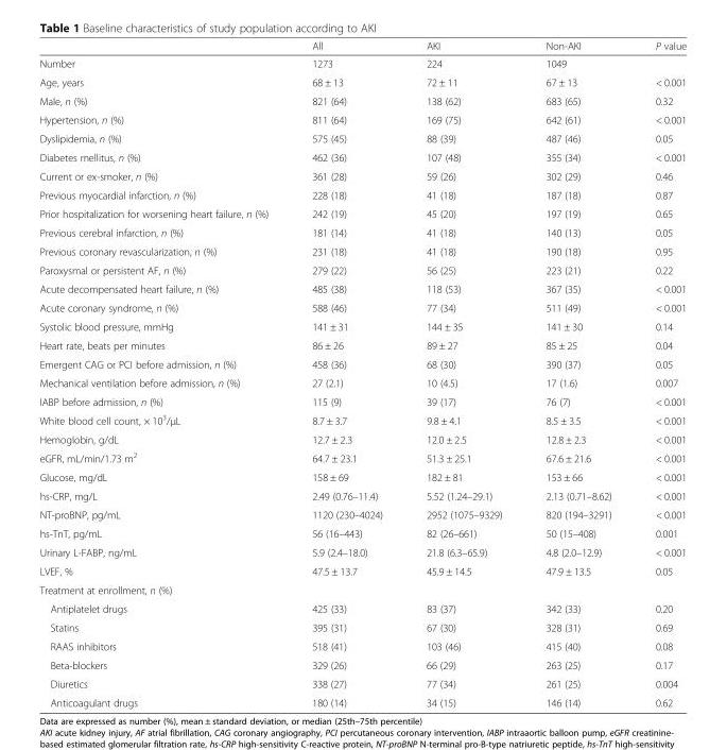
<table><thead><tr><td></td><td>All</td><td>AKI</td><td>Non-AKI</td><td>P value</td></tr></thead><tbody><tr><td>Number</td><td>1273</td><td>224</td><td>1049</td><td></td></tr><tr><td>Age, years</td><td>68 ± 13</td><td>72 ± 11</td><td>67 ± 13</td><td>&lt; 0.001</td></tr><tr><td>Male, n (%)</td><td>821 (64)</td><td>138 (62)</td><td>683 (65)</td><td>0.32</td></tr><tr><td>Hypertension, n (%)</td><td>811 (64)</td><td>169 (75)</td><td>642 (61)</td><td>&lt; 0.001</td></tr><tr><td>Dyslipidemia, n (%)</td><td>575 (45)</td><td>88 (39)</td><td>487 (46)</td><td>0.05</td></tr><tr><td>Diabetes mellitus, n (%)</td><td>462 (36)</td><td>107 (48)</td><td>355 (34)</td><td>&lt; 0.001</td></tr><tr><td>Current or ex-smoker, n (%)</td><td>361 (28)</td><td>59 (26)</td><td>302 (29)</td><td>0.46</td></tr><tr><td>Previous myocardial infarction, n (%)</td><td>228 (18)</td><td>41 (18)</td><td>187 (18)</td><td>0.87</td></tr><tr><td>Prior hospitalization for worsening heart failure, n (%)</td><td>242 (19)</td><td>45 (20)</td><td>197 (19)</td><td>0.65</td></tr><tr><td>Previous cerebral infarction, n (%)</td><td>181 (14)</td><td>41 (18)</td><td>140 (13)</td><td>0.05</td></tr><tr><td>Previous coronary revascularization, n (%)</td><td>231 (18)</td><td>41 (18)</td><td>190 (18)</td><td>0.95</td></tr><tr><td>Paroxysmal or persistent AF, n (%)</td><td>279 (22)</td><td>56 (25)</td><td>223 (21)</td><td>0.22</td></tr><tr><td>Acute decompensated heart failure, n (%)</td><td>485 (38)</td><td>118 (53)</td><td>367 (35)</td><td>&lt; 0.001</td></tr><tr><td>Acute coronary syndrome, n (%)</td><td>588 (46)</td><td>77 (34)</td><td>511 (49)</td><td>&lt; 0.001</td></tr><tr><td>Systolic blood pressure, mmHg</td><td>141 ± 31</td><td>144 ± 35</td><td>141 ± 30</td><td>0.14</td></tr><tr><td>Heart rate, beats per minutes</td><td>86 ± 26</td><td>89 ± 27</td><td>85 ± 25</td><td>0.04</td></tr><tr><td>Emergent CAG or PCI before admission, n (%)</td><td>458 (36)</td><td>68 (30)</td><td>390 (37)</td><td>0.05</td></tr><tr><td>Mechanical ventilation before admission, n (%)</td><td>27 (2.1)</td><td>10 (4.5)</td><td>17 (1.6)</td><td>0.007</td></tr><tr><td>IABP before admission, n (%)</td><td>115 (9)</td><td>39 (17)</td><td>76 (7)</td><td>&lt; 0.001</td></tr><tr><td>White blood cell count, × 10<sup>3</sup>/μL</td><td>8.7 ± 3.7</td><td>9.8 ± 4.1</td><td>8.5 ± 3.5</td><td>&lt; 0.001</td></tr><tr><td>Hemoglobin, g/dL</td><td>12.7 ± 2.3</td><td>12.0 ± 2.5</td><td>12.8 ± 2.3</td><td>&lt; 0.001</td></tr><tr><td>eGFR, mL/min/1.73 m<sup>2</sup></td><td>64.7 ± 23.1</td><td>51.3 ± 25.1</td><td>67.6 ± 21.6</td><td>&lt; 0.001</td></tr><tr><td>Glucose, mg/dL</td><td>158 ± 69</td><td>182 ± 81</td><td>153 ± 66</td><td>&lt; 0.001</td></tr><tr><td>hs-CRP, mg/L</td><td>2.49 (0.76–11.4)</td><td>5.52 (1.24–29.1)</td><td>2.13 (0.71–8.62)</td><td>&lt; 0.001</td></tr><tr><td>NT-proBNP, pg/mL</td><td>1120 (230–4024)</td><td>2952 (1075–9329)</td><td>820 (194–3291)</td><td>&lt; 0.001</td></tr><tr><td>hs-TnT, pg/mL</td><td>56 (16–443)</td><td>82 (26–661)</td><td>50 (15–408)</td><td>0.001</td></tr><tr><td>Urinary L-FABP, ng/mL</td><td>5.9 (2.4–18.0)</td><td>21.8 (6.3–65.9)</td><td>4.8 (2.0–12.9)</td><td>&lt; 0.001</td></tr><tr><td>LVEF, %</td><td>47.5 ± 13.7</td><td>45.9 ± 14.5</td><td>47.9 ± 13.5</td><td>0.05</td></tr><tr><td colspan="5">Treatment at enrollment, n (%)</td></tr><tr><td>Antiplatelet drugs</td><td>425 (33)</td><td>83 (37)</td><td>342 (33)</td><td>0.20</td></tr><tr><td>Statins</td><td>395 (31)</td><td>67 (30)</td><td>328 (31)</td><td>0.69</td></tr><tr><td>RAAS inhibitors</td><td>518 (41)</td><td>103 (46)</td><td>415 (40)</td><td>0.08</td></tr><tr><td>Beta-blockers</td><td>329 (26)</td><td>66 (29)</td><td>263 (25)</td><td>0.17</td></tr><tr><td>Diuretics</td><td>338 (27)</td><td>77 (34)</td><td>261 (25)</td><td>0.004</td></tr><tr><td>Anticoagulant drugs</td><td>180 (14)</td><td>34 (15)</td><td>146 (14)</td><td>0.62</td></tr></tbody></table>